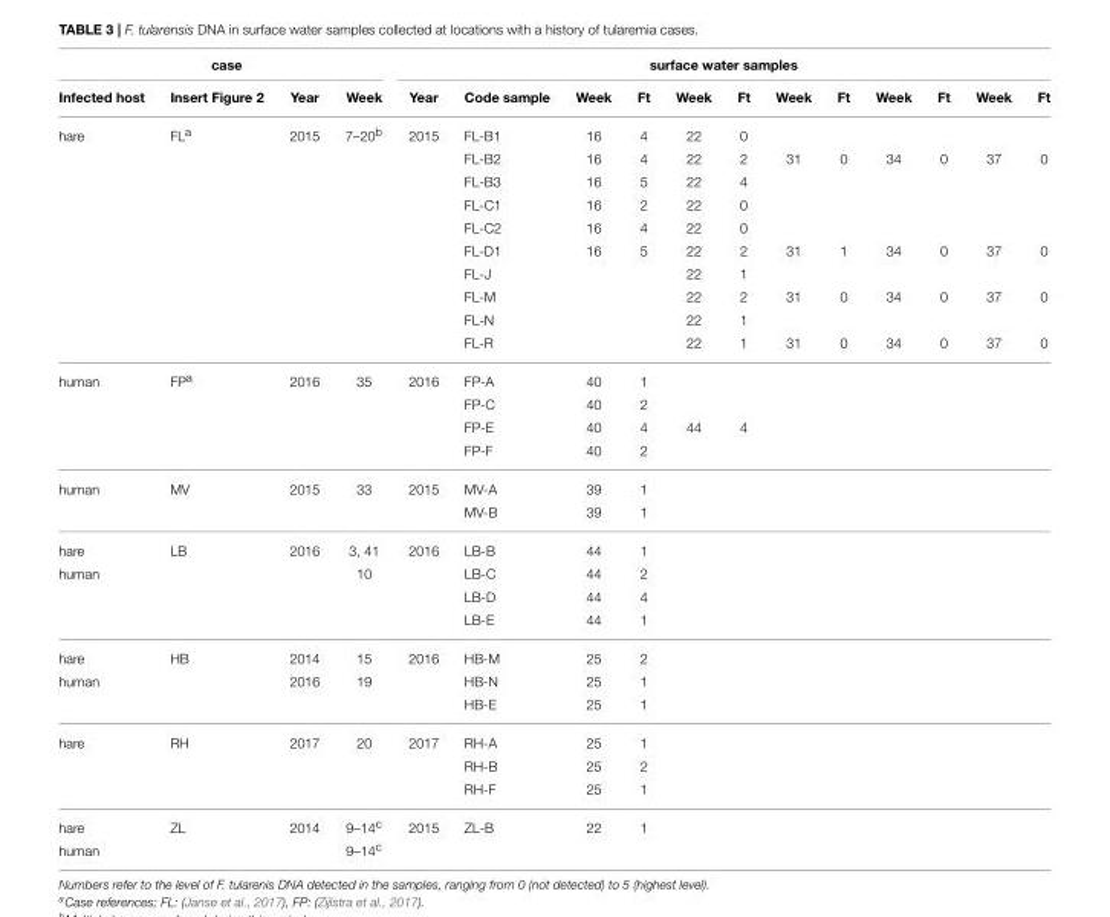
<table><thead><tr><td colspan="4">case</td><td colspan="12">surface water samples</td></tr><tr><td>Infected host</td><td>Insert Figure 2</td><td>Year</td><td>Week</td><td>Year</td><td>Code sample</td><td>Week</td><td>Ft</td><td>Week</td><td>Ft</td><td>Week</td><td>Ft</td><td>Week</td><td>Ft</td><td>Week</td><td>Ft</td></tr></thead><tbody><tr><td rowspan="10">hare</td><td>FL<sup>a</sup></td><td>2015</td><td>7–20<sup>b</sup></td><td>2015</td><td>FL-B1</td><td>16</td><td>4</td><td>22</td><td>0</td><td></td><td></td><td></td><td></td><td></td><td></td></tr><tr><td></td><td></td><td></td><td></td><td>FL-B2</td><td>16</td><td>4</td><td>22</td><td>2</td><td>31</td><td>0</td><td>34</td><td>0</td><td>37</td><td>0</td></tr><tr><td></td><td></td><td></td><td></td><td>FL-B3</td><td>16</td><td>5</td><td>22</td><td>4</td><td></td><td></td><td></td><td></td><td></td><td></td></tr><tr><td></td><td></td><td></td><td></td><td>FL-C1</td><td>16</td><td>2</td><td>22</td><td>0</td><td></td><td></td><td></td><td></td><td></td><td></td></tr><tr><td></td><td></td><td></td><td></td><td>FL-C2</td><td>16</td><td>4</td><td>22</td><td>0</td><td></td><td></td><td></td><td></td><td></td><td></td></tr><tr><td></td><td></td><td></td><td></td><td>FL-D1</td><td>16</td><td>5</td><td>22</td><td>2</td><td>31</td><td>1</td><td>34</td><td>0</td><td>37</td><td>0</td></tr><tr><td></td><td></td><td></td><td></td><td>FL-J</td><td></td><td></td><td>22</td><td>1</td><td></td><td></td><td></td><td></td><td></td><td></td></tr><tr><td></td><td></td><td></td><td></td><td>FL-M</td><td></td><td></td><td>22</td><td>2</td><td>31</td><td>0</td><td>34</td><td>0</td><td>37</td><td>0</td></tr><tr><td></td><td></td><td></td><td></td><td>FL-N</td><td></td><td></td><td>22</td><td>1</td><td></td><td></td><td></td><td></td><td></td><td></td></tr><tr><td></td><td></td><td></td><td></td><td>FL-R</td><td></td><td></td><td>22</td><td>1</td><td>31</td><td>0</td><td>34</td><td>0</td><td>37</td><td>0</td></tr><tr><td rowspan="4">human</td><td>FP<sup>a</sup></td><td>2016</td><td>35</td><td>2016</td><td>FP-A</td><td>40</td><td>1</td><td></td><td></td><td></td><td></td><td></td><td></td><td></td><td></td></tr><tr><td></td><td></td><td></td><td></td><td>FP-C</td><td>40</td><td>2</td><td></td><td></td><td></td><td></td><td></td><td></td><td></td><td></td></tr><tr><td></td><td></td><td></td><td></td><td>FP-E</td><td>40</td><td>4</td><td>44</td><td>4</td><td></td><td></td><td></td><td></td><td></td><td></td></tr><tr><td></td><td></td><td></td><td></td><td>FP-F</td><td>40</td><td>2</td><td></td><td></td><td></td><td></td><td></td><td></td><td></td><td></td></tr><tr><td rowspan="2">human</td><td>MV</td><td>2015</td><td>33</td><td>2015</td><td>MV-A</td><td>39</td><td>1</td><td></td><td></td><td></td><td></td><td></td><td></td><td></td><td></td></tr><tr><td></td><td></td><td></td><td></td><td>MV-B</td><td>39</td><td>1</td><td></td><td></td><td></td><td></td><td></td><td></td><td></td><td></td></tr><tr><td>hare</td><td>LB</td><td>2016</td><td>3, 41</td><td>2016</td><td>LB-B</td><td>44</td><td>1</td><td></td><td></td><td></td><td></td><td></td><td></td><td></td><td></td></tr><tr><td rowspan="3">human</td><td></td><td></td><td>10</td><td></td><td>LB-C</td><td>44</td><td>2</td><td></td><td></td><td></td><td></td><td></td><td></td><td></td><td></td></tr><tr><td></td><td></td><td></td><td></td><td>LB-D</td><td>44</td><td>4</td><td></td><td></td><td></td><td></td><td></td><td></td><td></td><td></td></tr><tr><td></td><td></td><td></td><td></td><td>LB-E</td><td>44</td><td>1</td><td></td><td></td><td></td><td></td><td></td><td></td><td></td><td></td></tr><tr><td>hare</td><td>HB</td><td>2014</td><td>15</td><td>2016</td><td>HB-M</td><td>25</td><td>2</td><td></td><td></td><td></td><td></td><td></td><td></td><td></td><td></td></tr><tr><td rowspan="2">human</td><td></td><td>2016</td><td>19</td><td></td><td>HB-N</td><td>25</td><td>1</td><td></td><td></td><td></td><td></td><td></td><td></td><td></td><td></td></tr><tr><td></td><td></td><td></td><td></td><td>HB-E</td><td>25</td><td>1</td><td></td><td></td><td></td><td></td><td></td><td></td><td></td><td></td></tr><tr><td rowspan="3">hare</td><td>RH</td><td>2017</td><td>20</td><td>2017</td><td>RH-A</td><td>25</td><td>1</td><td></td><td></td><td></td><td></td><td></td><td></td><td></td><td></td></tr><tr><td></td><td></td><td></td><td></td><td>RH-B</td><td>25</td><td>2</td><td></td><td></td><td></td><td></td><td></td><td></td><td></td><td></td></tr><tr><td></td><td></td><td></td><td></td><td>RH-F</td><td>25</td><td>1</td><td></td><td></td><td></td><td></td><td></td><td></td><td></td><td></td></tr><tr><td>hare</td><td>ZL</td><td>2014</td><td>9–14<sup>c</sup></td><td>2015</td><td>ZL-B</td><td>22</td><td>1</td><td></td><td></td><td></td><td></td><td></td><td></td><td></td><td></td></tr><tr><td>human</td><td></td><td></td><td>9–14<sup>c</sup></td><td></td><td></td><td></td><td></td><td></td><td></td><td></td><td></td><td></td><td></td><td></td><td></td></tr></tbody></table>